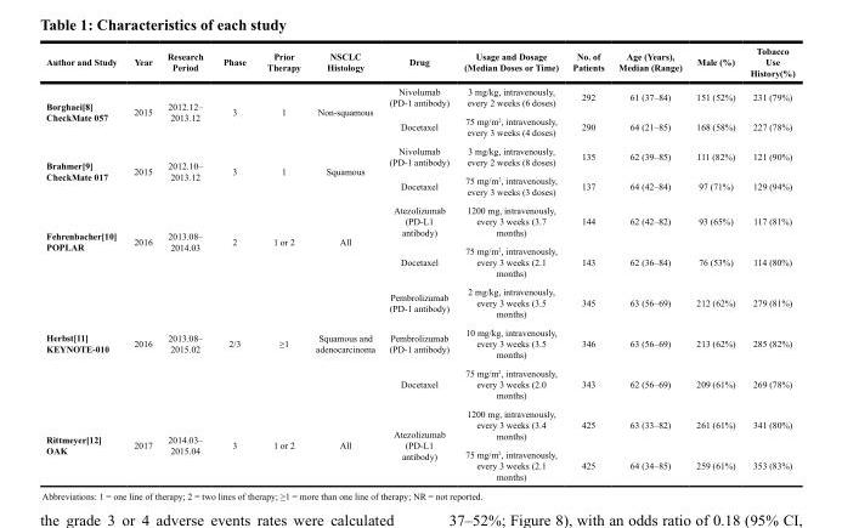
<table><thead><tr><td>Author and Study</td><td>Year</td><td>Research Period</td><td>Phase</td><td>Prior Therapy</td><td>NSCLC Histology</td><td>Drug</td><td>Usage and Dosage (Median Doses or Time)</td><td>No. of Patients</td><td>Age (Years), Median (Range)</td><td>Male (%)</td><td>Tobacco Use History(%)</td></tr></thead><tbody><tr><td rowspan="2">Borghaei[8] CheckMate 057</td><td rowspan="2">2015</td><td rowspan="2">2012.12– 2013.12</td><td rowspan="2">3</td><td rowspan="2">1</td><td rowspan="2">Non-squamous</td><td>Nivolumab (PD-1 antibody)</td><td>3 mg/kg, intravenously, every 2 weeks (6 doses)</td><td>292</td><td>61 (37–84)</td><td>151 (52%)</td><td>231 (79%)</td></tr><tr><td>Docetaxel</td><td>75 mg/m<sup>2</sup>, intravenously, every 3 weeks (4 doses)</td><td>290</td><td>64 (21–85)</td><td>168 (58%)</td><td>227 (78%)</td></tr><tr><td rowspan="2">Brahmer[9] CheckMate 017</td><td rowspan="2">2015</td><td rowspan="2">2012.10– 2013.12</td><td rowspan="2">3</td><td rowspan="2">1</td><td rowspan="2">Squamous</td><td>Nivolumab (PD-1 antibody)</td><td>3 mg/kg, intravenously, every 2 weeks (8 doses)</td><td>135</td><td>62 (39–85)</td><td>111 (82%)</td><td>121 (90%)</td></tr><tr><td>Docetaxel</td><td>75 mg/m<sup>2</sup>, intravenously, every 3 weeks (3 doses)</td><td>137</td><td>64 (42–84)</td><td>97 (71%)</td><td>129 (94%)</td></tr><tr><td rowspan="2">Fehrenbacher[10] POPLAR</td><td rowspan="2">2016</td><td rowspan="2">2013.08– 2014.03</td><td rowspan="2">2</td><td rowspan="2">1 or 2</td><td rowspan="2">All</td><td>Atezolizumab (PD-L1 antibody)</td><td>1200 mg, intravenously, every 3 weeks (3.7 months)</td><td>144</td><td>62 (42–82)</td><td>93 (65%)</td><td>117 (81%)</td></tr><tr><td>Docetaxel</td><td>75 mg/m<sup>2</sup>, intravenously, every 3 weeks (2.1 months)</td><td>143</td><td>62 (36–84)</td><td>76 (53%)</td><td>114 (80%)</td></tr><tr><td rowspan="3">Herbst[11] KEYNOTE-010</td><td rowspan="3">2016</td><td rowspan="3">2013.08– 2015.02</td><td rowspan="3">2/3</td><td rowspan="3">≥1</td><td rowspan="3">Squamous and adenocarcinoma</td><td>Pembrolizumab (PD-1 antibody)</td><td>2 mg/kg, intravenously, every 3 weeks (3.5 months)</td><td>345</td><td>63 (56–69)</td><td>212 (62%)</td><td>279 (81%)</td></tr><tr><td>Pembrolizumab (PD-1 antibody)</td><td>10 mg/kg, intravenously, every 3 weeks (3.5 months)</td><td>346</td><td>63 (56–69)</td><td>213 (62%)</td><td>285 (82%)</td></tr><tr><td>Docetaxel</td><td>75 mg/m<sup>2</sup>, intravenously, every 3 weeks (2.0 months)</td><td>343</td><td>62 (56–69)</td><td>209 (61%)</td><td>269 (78%)</td></tr><tr><td rowspan="2">Rittmeyer[12] OAK</td><td rowspan="2">2017</td><td rowspan="2">2014.03– 2015.04</td><td rowspan="2">3</td><td rowspan="2">1 or 2</td><td rowspan="2">All</td><td rowspan="2">Atezolizumab (PD-L1 antibody)</td><td>1200 mg, intravenously, every 3 weeks (3.4 months)</td><td>425</td><td>63 (33–82)</td><td>261 (61%)</td><td>341 (80%)</td></tr><tr><td>75 mg/m<sup>2</sup>, intravenously, every 3 weeks (2.1 months)</td><td>425</td><td>64 (34–85)</td><td>259 (61%)</td><td>353 (83%)</td></tr></tbody></table>